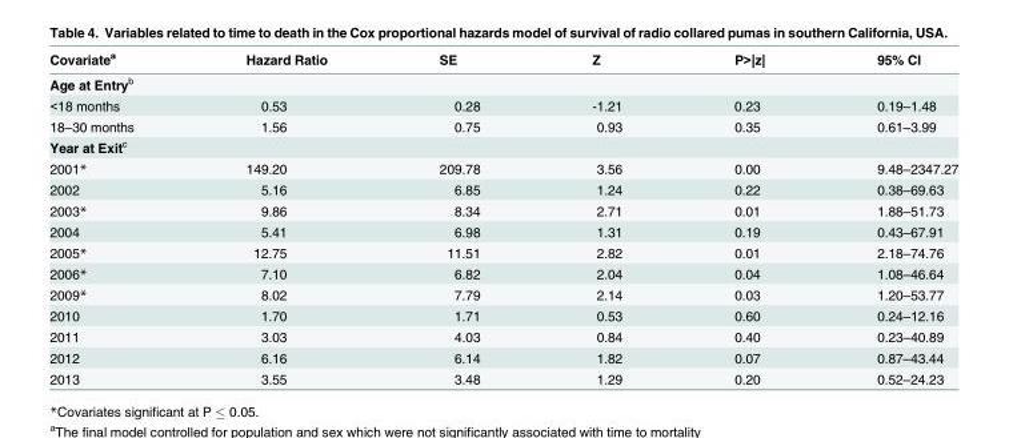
<table><thead><tr><td>Covariate<sup>a</sup></td><td>Hazard Ratio</td><td>SE</td><td>Z</td><td>P&gt;|z|</td><td>95% CI</td></tr></thead><tbody><tr><td colspan="6">Age at Entry<sup>b</sup></td></tr><tr><td>&lt;18 months</td><td>0.53</td><td>0.28</td><td>-1.21</td><td>0.23</td><td>0.19–1.48</td></tr><tr><td>18–30 months</td><td>1.56</td><td>0.75</td><td>0.93</td><td>0.35</td><td>0.61–3.99</td></tr><tr><td colspan="6">Year at Exit<sup>c</sup></td></tr><tr><td>2001*</td><td>149.20</td><td>209.78</td><td>3.56</td><td>0.00</td><td>9.48–2347.27</td></tr><tr><td>2002</td><td>5.16</td><td>6.85</td><td>1.24</td><td>0.22</td><td>0.38–69.63</td></tr><tr><td>2003*</td><td>9.86</td><td>8.34</td><td>2.71</td><td>0.01</td><td>1.88–51.73</td></tr><tr><td>2004</td><td>5.41</td><td>6.98</td><td>1.31</td><td>0.19</td><td>0.43–67.91</td></tr><tr><td>2005*</td><td>12.75</td><td>11.51</td><td>2.82</td><td>0.01</td><td>2.18–74.76</td></tr><tr><td>2006*</td><td>7.10</td><td>6.82</td><td>2.04</td><td>0.04</td><td>1.08–46.64</td></tr><tr><td>2009*</td><td>8.02</td><td>7.79</td><td>2.14</td><td>0.03</td><td>1.20–53.77</td></tr><tr><td>2010</td><td>1.70</td><td>1.71</td><td>0.53</td><td>0.60</td><td>0.24–12.16</td></tr><tr><td>2011</td><td>3.03</td><td>4.03</td><td>0.84</td><td>0.40</td><td>0.23–40.89</td></tr><tr><td>2012</td><td>6.16</td><td>6.14</td><td>1.82</td><td>0.07</td><td>0.87–43.44</td></tr><tr><td>2013</td><td>3.55</td><td>3.48</td><td>1.29</td><td>0.20</td><td>0.52–24.23</td></tr></tbody></table>